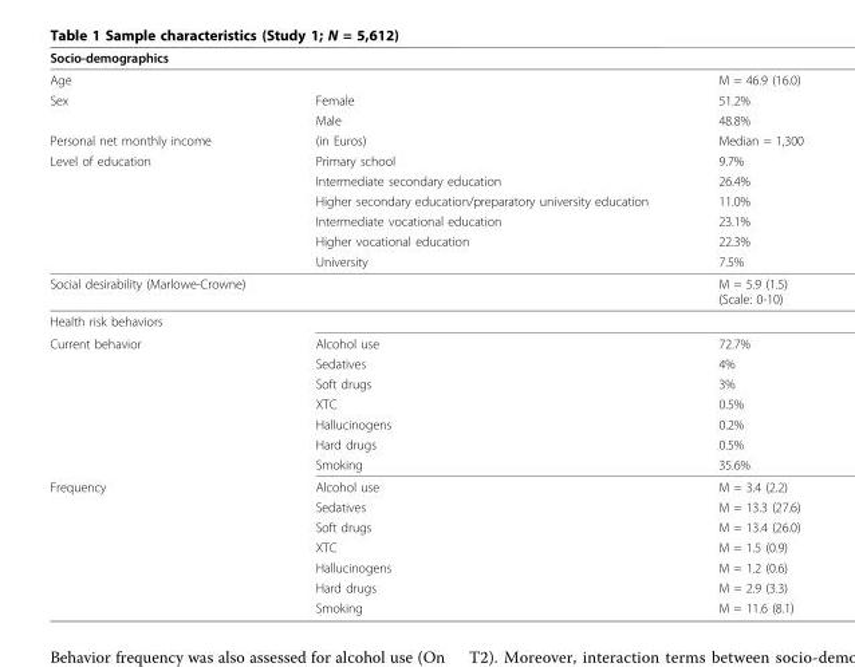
<table><thead><tr><td>Socio-demographics</td><td></td><td></td></tr></thead><tbody><tr><td>Age</td><td></td><td>M = 46.9 (16.0)</td></tr><tr><td rowspan="2">Sex</td><td>Female</td><td>51.2%</td></tr><tr><td>Male</td><td>48.8%</td></tr><tr><td>Personal net monthly income</td><td>(in Euros)</td><td>Median = 1,300</td></tr><tr><td rowspan="6">Level of education</td><td>Primary school</td><td>9.7%</td></tr><tr><td>Intermediate secondary education</td><td>26.4%</td></tr><tr><td>Higher secondary education/preparatory university education</td><td>11.0%</td></tr><tr><td>Intermediate vocational education</td><td>23.1%</td></tr><tr><td>Higher vocational education</td><td>22.3%</td></tr><tr><td>University</td><td>7.5%</td></tr><tr><td>Social desirability (Marlowe-Crowne)</td><td></td><td>M = 5.9 (1.5) (Scale: 0-10)</td></tr><tr><td colspan="3">Health risk behaviors</td></tr><tr><td rowspan="7">Current behavior</td><td>Alcohol use</td><td>72.7%</td></tr><tr><td>Sedatives</td><td>4%</td></tr><tr><td>Soft drugs</td><td>3%</td></tr><tr><td>XTC</td><td>0.5%</td></tr><tr><td>Hallucinogens</td><td>0.2%</td></tr><tr><td>Hard drugs</td><td>0.5%</td></tr><tr><td>Smoking</td><td>35.6%</td></tr><tr><td rowspan="7">Frequency</td><td>Alcohol use</td><td>M = 3.4 (2.2)</td></tr><tr><td>Sedatives</td><td>M = 13.3 (27.6)</td></tr><tr><td>Soft drugs</td><td>M = 13.4 (26.0)</td></tr><tr><td>XTC</td><td>M = 1.5 (0.9)</td></tr><tr><td>Hallucinogens</td><td>M = 1.2 (0.6)</td></tr><tr><td>Hard drugs</td><td>M = 2.9 (3.3)</td></tr><tr><td>Smoking</td><td>M = 11.6 (8.1)</td></tr></tbody></table>